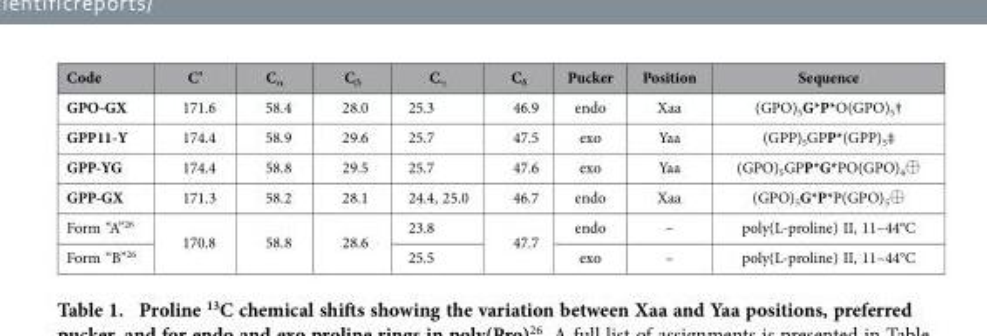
<table><thead><tr><td>Code</td><td>C’</td><td>C<sub>α</sub></td><td>C<sub>β</sub></td><td>C<sub>γ</sub></td><td>C<sub>δ</sub></td><td>Pucker</td><td>Position</td><td>Sequence</td></tr></thead><tbody><tr><td>GPO-GX</td><td>171.6</td><td>58.4</td><td>28.0</td><td>25.3</td><td>46.9</td><td>endo</td><td>Xaa</td><td>(GPO)<sub>5</sub>G*P*O(GPO)<sub>5</sub>†</td></tr><tr><td>GPP11-Y</td><td>174.4</td><td>58.9</td><td>29.6</td><td>25.7</td><td>47.5</td><td>exo</td><td>Yaa</td><td>(GPP)<sub>5</sub>GPP*(GPP)<sub>5</sub>‡</td></tr><tr><td>GPP-YG</td><td>174.4</td><td>58.8</td><td>29.5</td><td>25.7</td><td>47.6</td><td>exo</td><td>Yaa</td><td>(GPO)<sub>5</sub>GPP*G*PO(GPO)<sub>4</sub>+</td></tr><tr><td>GPP-GX</td><td>171.3</td><td>58.2</td><td>28.1</td><td>24.4, 25.0</td><td>46.7</td><td>endo</td><td>Xaa</td><td>(GPO)<sub>5</sub>G*P*P(GPO)<sub>5</sub>+</td></tr><tr><td>Form “A”<sup>26</sup></td><td rowspan="2">170.8</td><td rowspan="2">58.8</td><td rowspan="2">28.6</td><td>23.8</td><td rowspan="2">47.7</td><td>endo</td><td>–</td><td>poly(L-proline) II, 11–44°C</td></tr><tr><td>Form “B”<sup>26</sup></td><td>25.5</td><td>exo</td><td>–</td><td>poly(L-proline) II, 11–44°C</td></tr></tbody></table>